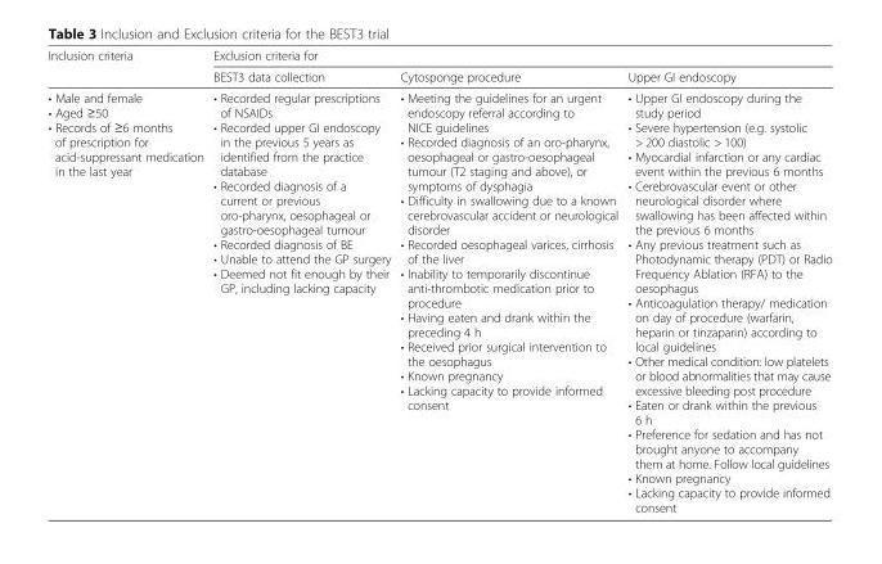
<table><thead><tr><td rowspan="2">Inclusion criteria</td><td colspan="3">Exclusion criteria for</td></tr><tr><td>BEST3 data collection</td><td>Cytosponge procedure</td><td>Upper GI endoscopy</td></tr></thead><tbody><tr><td>• Male and female • Aged ≥50 • Records of ≥6 months of prescription for acid-suppressant medication in the last year</td><td>• Recorded regular prescriptions of NSAIDs • Recorded upper GI endoscopy in the previous 5 years as identified from the practice database • Recorded diagnosis of a current or previous oro-pharynx, oesophageal or gastro-oesophageal tumour • Recorded diagnosis of BE • Unable to attend the GP surgery • Deemed not fit enough by their GP, including lacking capacity</td><td>• Meeting the guidelines for an urgent endoscopy referral according to NICE guidelines • Recorded diagnosis of an oro-pharynx, oesophageal or gastro-oesophageal tumour (T2 staging and above), or symptoms of dysphagia • Difficulty in swallowing due to a known cerebrovascular accident or neurological disorder • Recorded oesophageal varices, cirrhosis of the liver • Inability to temporarily discontinue anti-thrombotic medication prior to procedure • Having eaten and drank within the preceding 4 h • Received prior surgical intervention to the oesophagus • Known pregnancy • Lacking capacity to provide informed consent</td><td>• Upper GI endoscopy during the study period • Severe hypertension (e.g. systolic &gt; 200 diastolic &gt; 100) • Myocardial infarction or any cardiac event within the previous 6 months • Cerebrovascular event or other neurological disorder where swallowing has been affected within the previous 6 months • Any previous treatment such as Photodynamic therapy (PDT) or Radio Frequency Ablation (RFA) to the oesophagus • Anticoagulation therapy/ medication on day of procedure (warfarin, heparin or tinzaparin) according to local guidelines • Other medical condition: low platelets or blood abnormalities that may cause excessive bleeding post procedure • Eaten or drank within the previous 6 h • Preference for sedation and has not brought anyone to accompany them at home. Follow local guidelines • Known pregnancy • Lacking capacity to provide informed consent</td></tr></tbody></table>